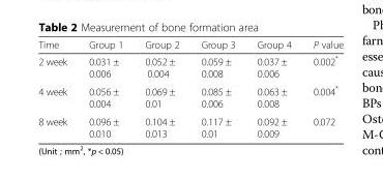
<table><thead><tr><td>Time</td><td>Group 1</td><td>Group 2</td><td>Group 3</td><td>Group 4</td><td>P value</td></tr></thead><tbody><tr><td>2 week</td><td>0.031 ± 0.006</td><td>0.052 ± 0.004</td><td>0.059 ± 0.008</td><td>0.037 ± 0.006</td><td>0.002*</td></tr><tr><td>4 week</td><td>0.056 ± 0.004</td><td>0.069 ± 0.01</td><td>0.085 ± 0.006</td><td>0.063 ± 0.008</td><td>0.004*</td></tr><tr><td>8 week</td><td>0.096 ± 0.010</td><td>0.104 ± 0.013</td><td>0.117 ± 0.01</td><td>0.092 ± 0.009</td><td>0.072</td></tr></tbody></table>